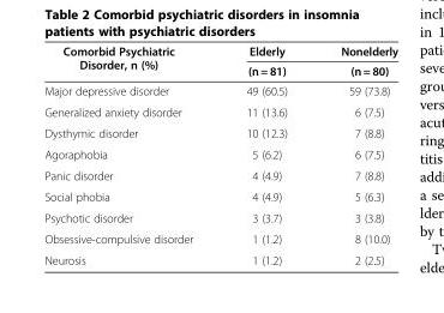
<table><thead><tr><td rowspan="2">Comorbid Psychiatric Disorder, n (%)</td><td rowspan="2">Elderly (n = 81)</td><td rowspan="2">Nonelderly (n = 80)</td></tr><tr></tr></thead><tbody><tr><td>Major depressive disorder</td><td>49 (60.5)</td><td>59 (73.8)</td></tr><tr><td>Generalized anxiety disorder</td><td>11 (13.6)</td><td>6 (7.5)</td></tr><tr><td>Dysthymic disorder</td><td>10 (12.3)</td><td>7 (8.8)</td></tr><tr><td>Agoraphobia</td><td>5 (6.2)</td><td>6 (7.5)</td></tr><tr><td>Panic disorder</td><td>4 (4.9)</td><td>7 (8.8)</td></tr><tr><td>Social phobia</td><td>4 (4.9)</td><td>5 (6.3)</td></tr><tr><td>Psychotic disorder</td><td>3 (3.7)</td><td>3 (3.8)</td></tr><tr><td>Obsessive-compulsive disorder</td><td>1 (1.2)</td><td>8 (10.0)</td></tr><tr><td>Neurosis</td><td>1 (1.2)</td><td>2 (2.5)</td></tr></tbody></table>